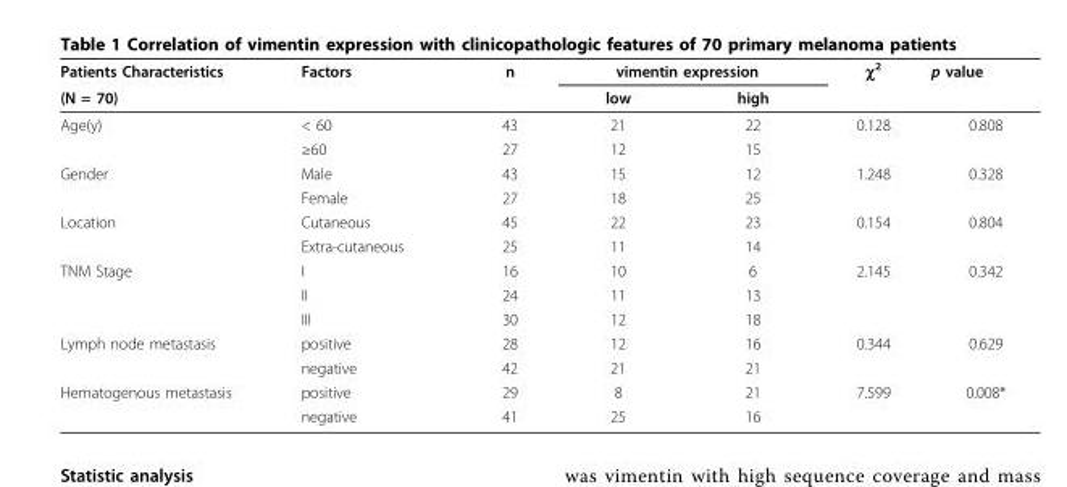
<table><thead><tr><td rowspan="2">Patients Characteristics (N = 70)</td><td rowspan="2">Factors</td><td rowspan="2">n</td><td colspan="2">vimentin expression</td><td rowspan="2">χ<sup>2</sup></td><td rowspan="2">p value</td></tr><tr><td>low</td><td>high</td></tr></thead><tbody><tr><td rowspan="2">Age(y)</td><td>&lt; 60</td><td>43</td><td>21</td><td>22</td><td>0.128</td><td>0.808</td></tr><tr><td>≥60</td><td>27</td><td>12</td><td>15</td><td></td><td></td></tr><tr><td rowspan="2">Gender</td><td>Male</td><td>43</td><td>15</td><td>12</td><td>1.248</td><td>0.328</td></tr><tr><td>Female</td><td>27</td><td>18</td><td>25</td><td></td><td></td></tr><tr><td rowspan="2">Location</td><td>Cutaneous</td><td>45</td><td>22</td><td>23</td><td>0.154</td><td>0.804</td></tr><tr><td>Extra-cutaneous</td><td>25</td><td>11</td><td>14</td><td></td><td></td></tr><tr><td rowspan="3">TNM Stage</td><td>I</td><td>16</td><td>10</td><td>6</td><td>2.145</td><td>0.342</td></tr><tr><td>II</td><td>24</td><td>11</td><td>13</td><td></td><td></td></tr><tr><td>III</td><td>30</td><td>12</td><td>18</td><td></td><td></td></tr><tr><td rowspan="2">Lymph node metastasis</td><td>positive</td><td>28</td><td>12</td><td>16</td><td>0.344</td><td>0.629</td></tr><tr><td>negative</td><td>42</td><td>21</td><td>21</td><td></td><td></td></tr><tr><td rowspan="2">Hematogenous metastasis</td><td>positive</td><td>29</td><td>8</td><td>21</td><td>7.599</td><td>0.008*</td></tr><tr><td>negative</td><td>41</td><td>25</td><td>16</td><td></td><td></td></tr></tbody></table>